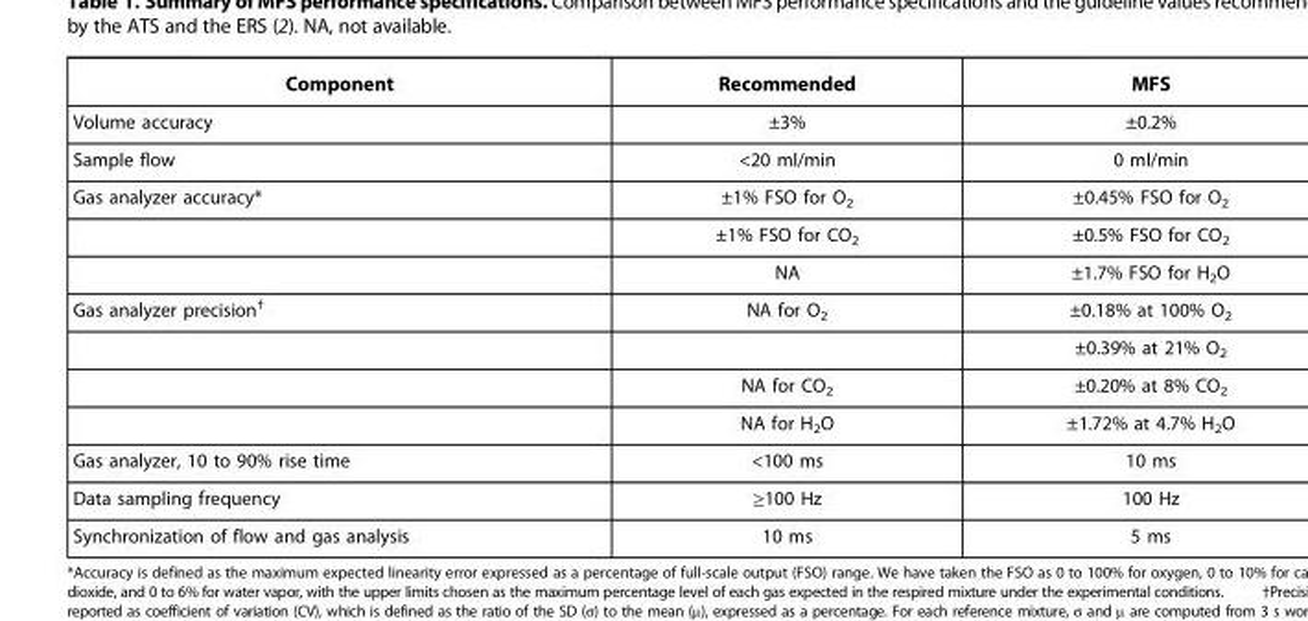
<table><thead><tr><td>Component</td><td>Recommended</td><td>MFS</td></tr></thead><tbody><tr><td>Volume accuracy</td><td>±3%</td><td>±0.2%</td></tr><tr><td>Sample flow</td><td>&lt;20 ml/min</td><td>0 ml/min</td></tr><tr><td rowspan="3">Gas analyzer accuracy*</td><td>±1% FSO for O<sub>2</sub></td><td>±0.45% FSO for O<sub>2</sub></td></tr><tr><td>±1% FSO for CO<sub>2</sub></td><td>±0.5% FSO for CO<sub>2</sub></td></tr><tr><td>NA</td><td>±1.7% FSO for H<sub>2</sub>O</td></tr><tr><td rowspan="4">Gas analyzer precision<sup>†</sup></td><td>NA for O<sub>2</sub></td><td>±0.18% at 100% O<sub>2</sub></td></tr><tr><td></td><td>±0.39% at 21% O<sub>2</sub></td></tr><tr><td>NA for CO<sub>2</sub></td><td>±0.20% at 8% CO<sub>2</sub></td></tr><tr><td>NA for H<sub>2</sub>O</td><td>±1.72% at 4.7% H<sub>2</sub>O</td></tr><tr><td>Gas analyzer, 10 to 90% rise time</td><td>&lt;100 ms</td><td>10 ms</td></tr><tr><td>Data sampling frequency</td><td>≥100 Hz</td><td>100 Hz</td></tr><tr><td>Synchronization of flow and gas analysis</td><td>10 ms</td><td>5 ms</td></tr></tbody></table>